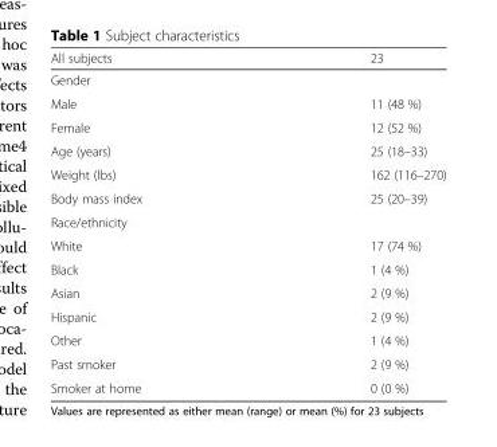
<table><thead><tr><td>All subjects</td><td>23</td></tr></thead><tbody><tr><td colspan="2">Gender</td></tr><tr><td>Male</td><td>11 (48 %)</td></tr><tr><td>Female</td><td>12 (52 %)</td></tr><tr><td>Age (years)</td><td>25 (18–33)</td></tr><tr><td>Weight (lbs)</td><td>162 (116–270)</td></tr><tr><td>Body mass index</td><td>25 (20–39)</td></tr><tr><td colspan="2">Race/ethnicity</td></tr><tr><td>White</td><td>17 (74 %)</td></tr><tr><td>Black</td><td>1 (4 %)</td></tr><tr><td>Asian</td><td>2 (9 %)</td></tr><tr><td>Hispanic</td><td>2 (9 %)</td></tr><tr><td>Other</td><td>1 (4 %)</td></tr><tr><td>Past smoker</td><td>2 (9 %)</td></tr><tr><td>Smoker at home</td><td>0 (0 %)</td></tr></tbody></table>